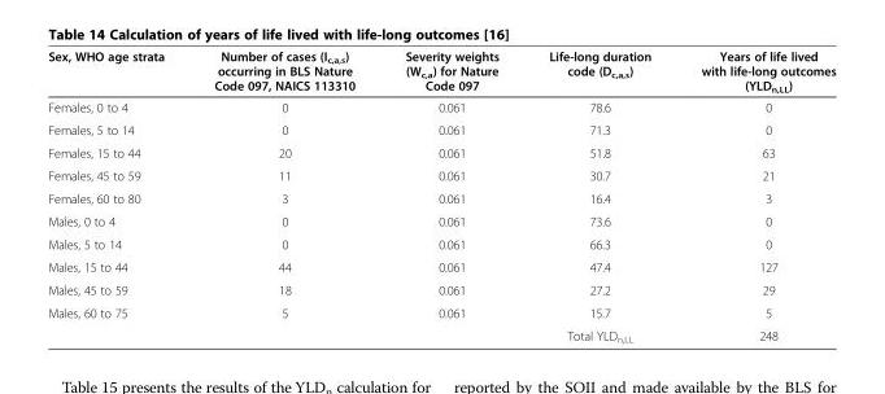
<table><thead><tr><td>Sex, WHO age strata</td><td>Number of cases (I<sub>c,a,s</sub>) occurring in BLS Nature Code 097, NAICS 113310</td><td>Severity weights (W<sub>c,a</sub>) for Nature Code 097</td><td>Life-long duration code (D<sub>c,a,s</sub>)</td><td>Years of life lived with life-long outcomes (YLD<sub>n,LL</sub>)</td></tr></thead><tbody><tr><td>Females, 0 to 4</td><td>0</td><td>0.061</td><td>78.6</td><td>0</td></tr><tr><td>Females, 5 to 14</td><td>0</td><td>0.061</td><td>71.3</td><td>0</td></tr><tr><td>Females, 15 to 44</td><td>20</td><td>0.061</td><td>51.8</td><td>63</td></tr><tr><td>Females, 45 to 59</td><td>11</td><td>0.061</td><td>30.7</td><td>21</td></tr><tr><td>Females, 60 to 80</td><td>3</td><td>0.061</td><td>16.4</td><td>3</td></tr><tr><td>Males, 0 to 4</td><td>0</td><td>0.061</td><td>73.6</td><td>0</td></tr><tr><td>Males, 5 to 14</td><td>0</td><td>0.061</td><td>66.3</td><td>0</td></tr><tr><td>Males, 15 to 44</td><td>44</td><td>0.061</td><td>47.4</td><td>127</td></tr><tr><td>Males, 45 to 59</td><td>18</td><td>0.061</td><td>27.2</td><td>29</td></tr><tr><td rowspan="2">Males, 60 to 75</td><td>5</td><td>0.061</td><td>15.7</td><td>5</td></tr><tr><td></td><td></td><td>Total YLD<sub>n,LL</sub></td><td>248</td></tr></tbody></table>